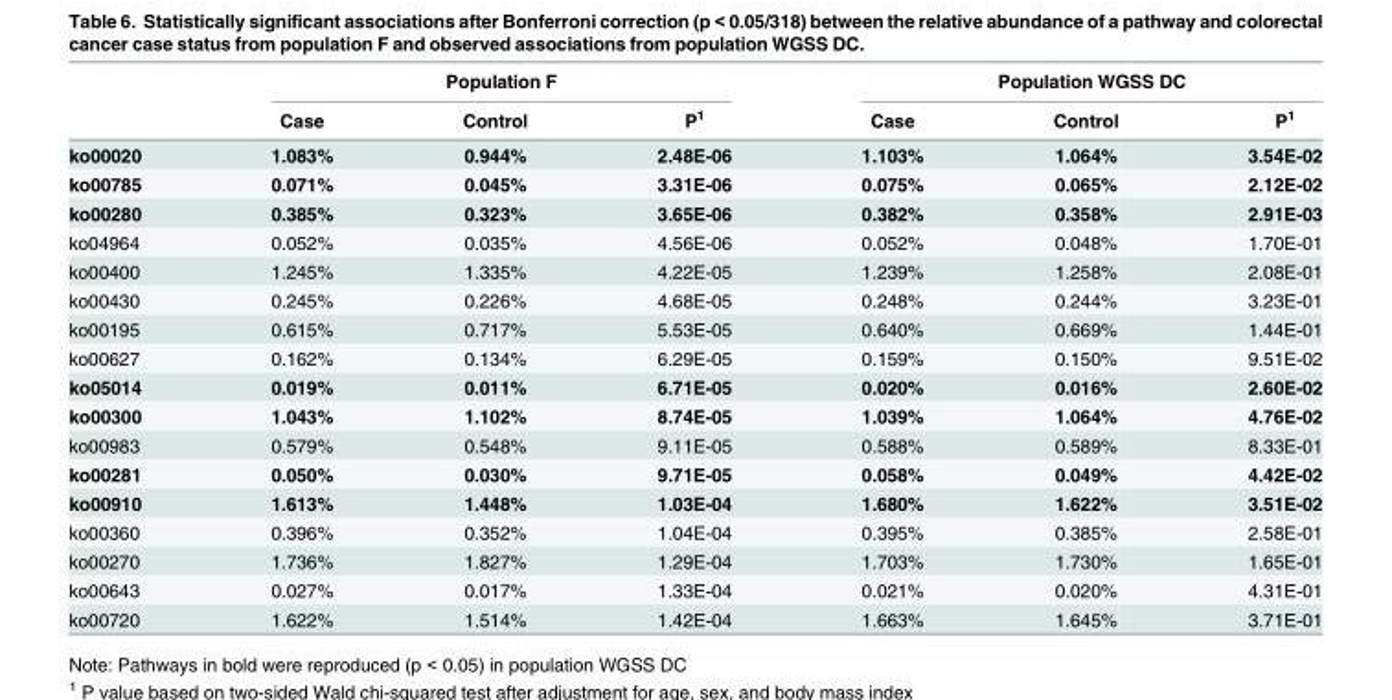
<table><thead><tr><td rowspan="2"></td><td colspan="3">Population F</td><td colspan="3">Population WGSS DC</td></tr><tr><td>Case</td><td>Control</td><td>P<sup>1</sup></td><td>Case</td><td>Control</td><td>P<sup>1</sup></td></tr></thead><tbody><tr><td>ko00020</td><td>1.083%</td><td>0.944%</td><td>2.48E-06</td><td>1.103%</td><td>1.064%</td><td>3.54E-02</td></tr><tr><td>ko00785</td><td>0.071%</td><td>0.045%</td><td>3.31E-06</td><td>0.075%</td><td>0.065%</td><td>2.12E-02</td></tr><tr><td>ko00280</td><td>0.385%</td><td>0.323%</td><td>3.65E-06</td><td>0.382%</td><td>0.358%</td><td>2.91E-03</td></tr><tr><td>ko04964</td><td>0.052%</td><td>0.035%</td><td>4.56E-06</td><td>0.052%</td><td>0.048%</td><td>1.70E-01</td></tr><tr><td>ko00400</td><td>1.245%</td><td>1.335%</td><td>4.22E-05</td><td>1.239%</td><td>1.258%</td><td>2.08E-01</td></tr><tr><td>ko00430</td><td>0.245%</td><td>0.226%</td><td>4.68E-05</td><td>0.248%</td><td>0.244%</td><td>3.23E-01</td></tr><tr><td>ko00195</td><td>0.615%</td><td>0.717%</td><td>5.53E-05</td><td>0.640%</td><td>0.669%</td><td>1.44E-01</td></tr><tr><td>ko00627</td><td>0.162%</td><td>0.134%</td><td>6.29E-05</td><td>0.159%</td><td>0.150%</td><td>9.51E-02</td></tr><tr><td>ko05014</td><td>0.019%</td><td>0.011%</td><td>6.71E-05</td><td>0.020%</td><td>0.016%</td><td>2.60E-02</td></tr><tr><td>ko00300</td><td>1.043%</td><td>1.102%</td><td>8.74E-05</td><td>1.039%</td><td>1.064%</td><td>4.76E-02</td></tr><tr><td>ko00983</td><td>0.579%</td><td>0.548%</td><td>9.11E-05</td><td>0.588%</td><td>0.589%</td><td>8.33E-01</td></tr><tr><td>ko00281</td><td>0.050%</td><td>0.030%</td><td>9.71E-05</td><td>0.058%</td><td>0.049%</td><td>4.42E-02</td></tr><tr><td>ko00910</td><td>1.613%</td><td>1.448%</td><td>1.03E-04</td><td>1.680%</td><td>1.622%</td><td>3.51E-02</td></tr><tr><td>ko00360</td><td>0.396%</td><td>0.352%</td><td>1.04E-04</td><td>0.395%</td><td>0.385%</td><td>2.58E-01</td></tr><tr><td>ko00270</td><td>1.736%</td><td>1.827%</td><td>1.29E-04</td><td>1.703%</td><td>1.730%</td><td>1.65E-01</td></tr><tr><td>ko00643</td><td>0.027%</td><td>0.017%</td><td>1.33E-04</td><td>0.021%</td><td>0.020%</td><td>4.31E-01</td></tr><tr><td>ko00720</td><td>1.622%</td><td>1.514%</td><td>1.42E-04</td><td>1.663%</td><td>1.645%</td><td>3.71E-01</td></tr></tbody></table>